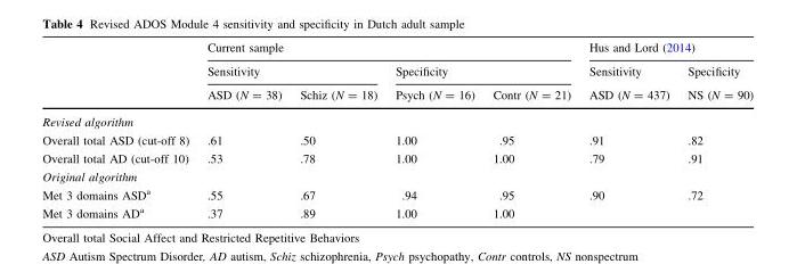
<table><thead><tr><td rowspan="3"></td><td colspan="4">Current sample</td><td colspan="2">Hus and Lord (2014)</td></tr><tr><td colspan="2">Sensitivity</td><td colspan="2">Specificity</td><td rowspan="2">Sensitivity ASD (N = 437)</td><td rowspan="2">Specificity NS (N = 90)</td></tr><tr><td>ASD (N = 38)</td><td>Schiz (N = 18)</td><td>Psych (N = 16)</td><td>Contr (N = 21)</td></tr></thead><tbody><tr><td colspan="7">Revised algorithm</td></tr><tr><td>Overall total ASD (cut-off 8)</td><td>.61</td><td>.50</td><td>1.00</td><td>.95</td><td>.91</td><td>.82</td></tr><tr><td>Overall total AD (cut-off 10)</td><td>.53</td><td>.78</td><td>1.00</td><td>1.00</td><td>.79</td><td>.91</td></tr><tr><td colspan="7">Original algorithm</td></tr><tr><td>Met 3 domains ASD<sup>a</sup></td><td>.55</td><td>.67</td><td>.94</td><td>.95</td><td>.90</td><td>.72</td></tr><tr><td>Met 3 domains AD<sup>a</sup></td><td>.37</td><td>.89</td><td>1.00</td><td>1.00</td><td></td><td></td></tr></tbody></table>